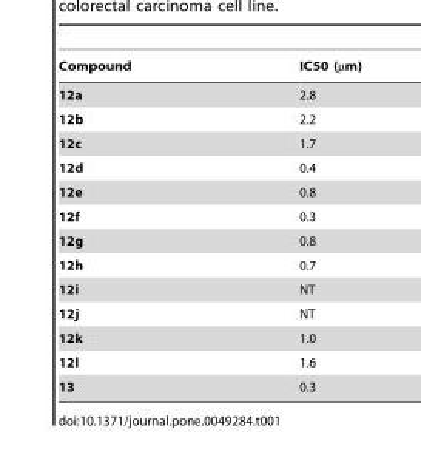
<table><thead><tr><td>Compound</td><td>IC50 (µm)</td></tr></thead><tbody><tr><td>12a</td><td>2.8</td></tr><tr><td>12b</td><td>2.2</td></tr><tr><td>12c</td><td>1.7</td></tr><tr><td>12d</td><td>0.4</td></tr><tr><td>12e</td><td>0.8</td></tr><tr><td>12f</td><td>0.3</td></tr><tr><td>12g</td><td>0.8</td></tr><tr><td>12h</td><td>0.7</td></tr><tr><td>12i</td><td>NT</td></tr><tr><td>12j</td><td>NT</td></tr><tr><td>12k</td><td>1.0</td></tr><tr><td>12l</td><td>1.6</td></tr><tr><td>13</td><td>0.3</td></tr></tbody></table>